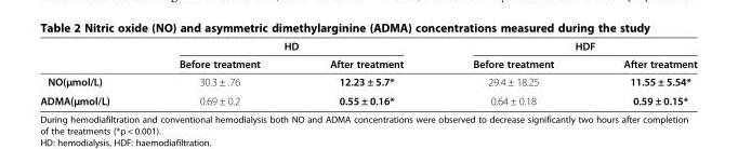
<table><thead><tr><td rowspan="2"></td><td colspan="2">HD</td><td colspan="2">HDF</td></tr><tr><td>Before treatment</td><td>After treatment</td><td>Before treatment</td><td>After treatment</td></tr></thead><tbody><tr><td>NO(μmol/L)</td><td>30.3 ± .76</td><td>12.23 ± 5.7*</td><td>29.4 ± 18.25</td><td>11.55 ± 5.54*</td></tr><tr><td>ADMA(μmol/L)</td><td>0.69 ± 0.2</td><td>0.55 ± 0.16*</td><td>0.64 ± 0.18</td><td>0.59 ± 0.15*</td></tr></tbody></table>